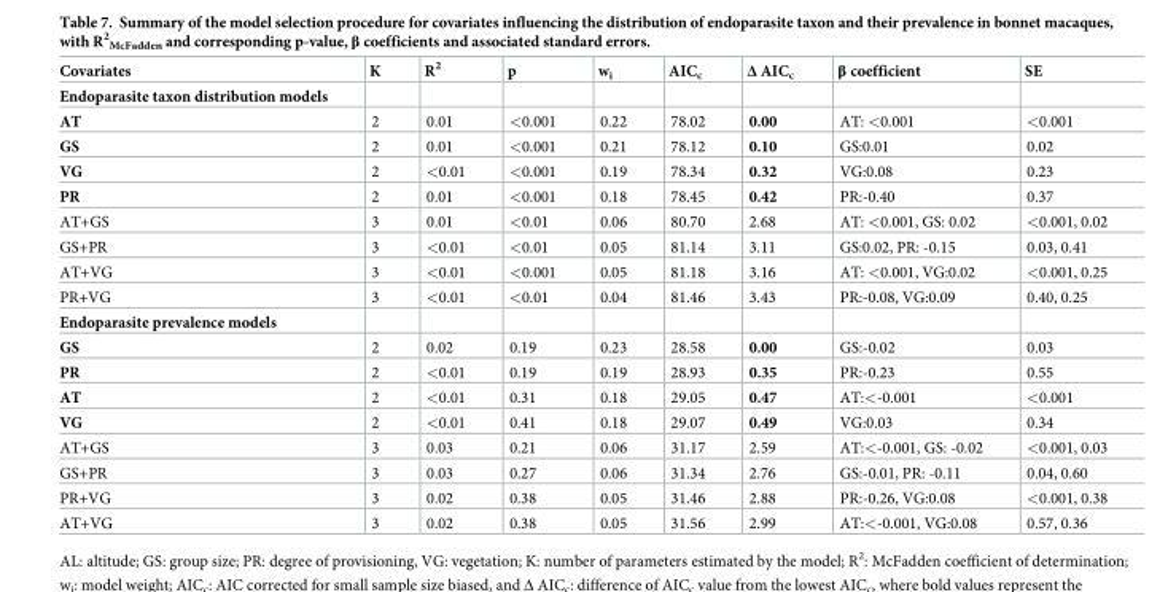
<table><thead><tr><td>Covariates</td><td>K</td><td>R<sup>2</sup></td><td>p</td><td>w<sub>i</sub></td><td>AIC<sub>c</sub></td><td>Δ AIC<sub>c</sub></td><td>β coefficient</td><td>SE</td></tr></thead><tbody><tr><td colspan="9">Endoparasite taxon distribution models</td></tr><tr><td>AT</td><td>2</td><td>0.01</td><td>&lt;0.001</td><td>0.22</td><td>78.02</td><td>0.00</td><td>AT: &lt;0.001</td><td>&lt;0.001</td></tr><tr><td>GS</td><td>2</td><td>0.01</td><td>&lt;0.001</td><td>0.21</td><td>78.12</td><td>0.10</td><td>GS:0.01</td><td>0.02</td></tr><tr><td>VG</td><td>2</td><td>&lt;0.01</td><td>&lt;0.001</td><td>0.19</td><td>78.34</td><td>0.32</td><td>VG:0.08</td><td>0.23</td></tr><tr><td>PR</td><td>2</td><td>0.01</td><td>&lt;0.001</td><td>0.18</td><td>78.45</td><td>0.42</td><td>PR:-0.40</td><td>0.37</td></tr><tr><td>AT+GS</td><td>3</td><td>0.01</td><td>&lt;0.01</td><td>0.06</td><td>80.70</td><td>2.68</td><td>AT: &lt;0.001, GS: 0.02</td><td>&lt;0.001, 0.02</td></tr><tr><td>GS+PR</td><td>3</td><td>&lt;0.01</td><td>&lt;0.01</td><td>0.05</td><td>81.14</td><td>3.11</td><td>GS:0.02, PR: -0.15</td><td>0.03, 0.41</td></tr><tr><td>AT+VG</td><td>3</td><td>&lt;0.01</td><td>&lt;0.001</td><td>0.05</td><td>81.18</td><td>3.16</td><td>AT: &lt;0.001, VG:0.02</td><td>&lt;0.001, 0.25</td></tr><tr><td>PR+VG</td><td>3</td><td>&lt;0.01</td><td>&lt;0.01</td><td>0.04</td><td>81.46</td><td>3.43</td><td>PR:-0.08, VG:0.09</td><td>0.40, 0.25</td></tr><tr><td colspan="9">Endoparasite prevalence models</td></tr><tr><td>GS</td><td>2</td><td>0.02</td><td>0.19</td><td>0.23</td><td>28.58</td><td>0.00</td><td>GS:-0.02</td><td>0.03</td></tr><tr><td>PR</td><td>2</td><td>&lt;0.01</td><td>0.19</td><td>0.19</td><td>28.93</td><td>0.35</td><td>PR:-0.23</td><td>0.55</td></tr><tr><td>AT</td><td>2</td><td>&lt;0.01</td><td>0.31</td><td>0.18</td><td>29.05</td><td>0.47</td><td>AT:&lt;-0.001</td><td>&lt;0.001</td></tr><tr><td>VG</td><td>2</td><td>&lt;0.01</td><td>0.41</td><td>0.18</td><td>29.07</td><td>0.49</td><td>VG:0.03</td><td>0.34</td></tr><tr><td>AT+GS</td><td>3</td><td>0.03</td><td>0.21</td><td>0.06</td><td>31.17</td><td>2.59</td><td>AT:&lt;-0.001, GS: -0.02</td><td>&lt;0.001, 0.03</td></tr><tr><td>GS+PR</td><td>3</td><td>0.03</td><td>0.27</td><td>0.06</td><td>31.34</td><td>2.76</td><td>GS:-0.01, PR: -0.11</td><td>0.04, 0.60</td></tr><tr><td>PR+VG</td><td>3</td><td>0.02</td><td>0.38</td><td>0.05</td><td>31.46</td><td>2.88</td><td>PR:-0.26, VG:0.08</td><td>&lt;0.001, 0.38</td></tr><tr><td>AT+VG</td><td>3</td><td>0.02</td><td>0.38</td><td>0.05</td><td>31.56</td><td>2.99</td><td>AT:&lt;-0.001, VG:0.08</td><td>0.57, 0.36</td></tr></tbody></table>